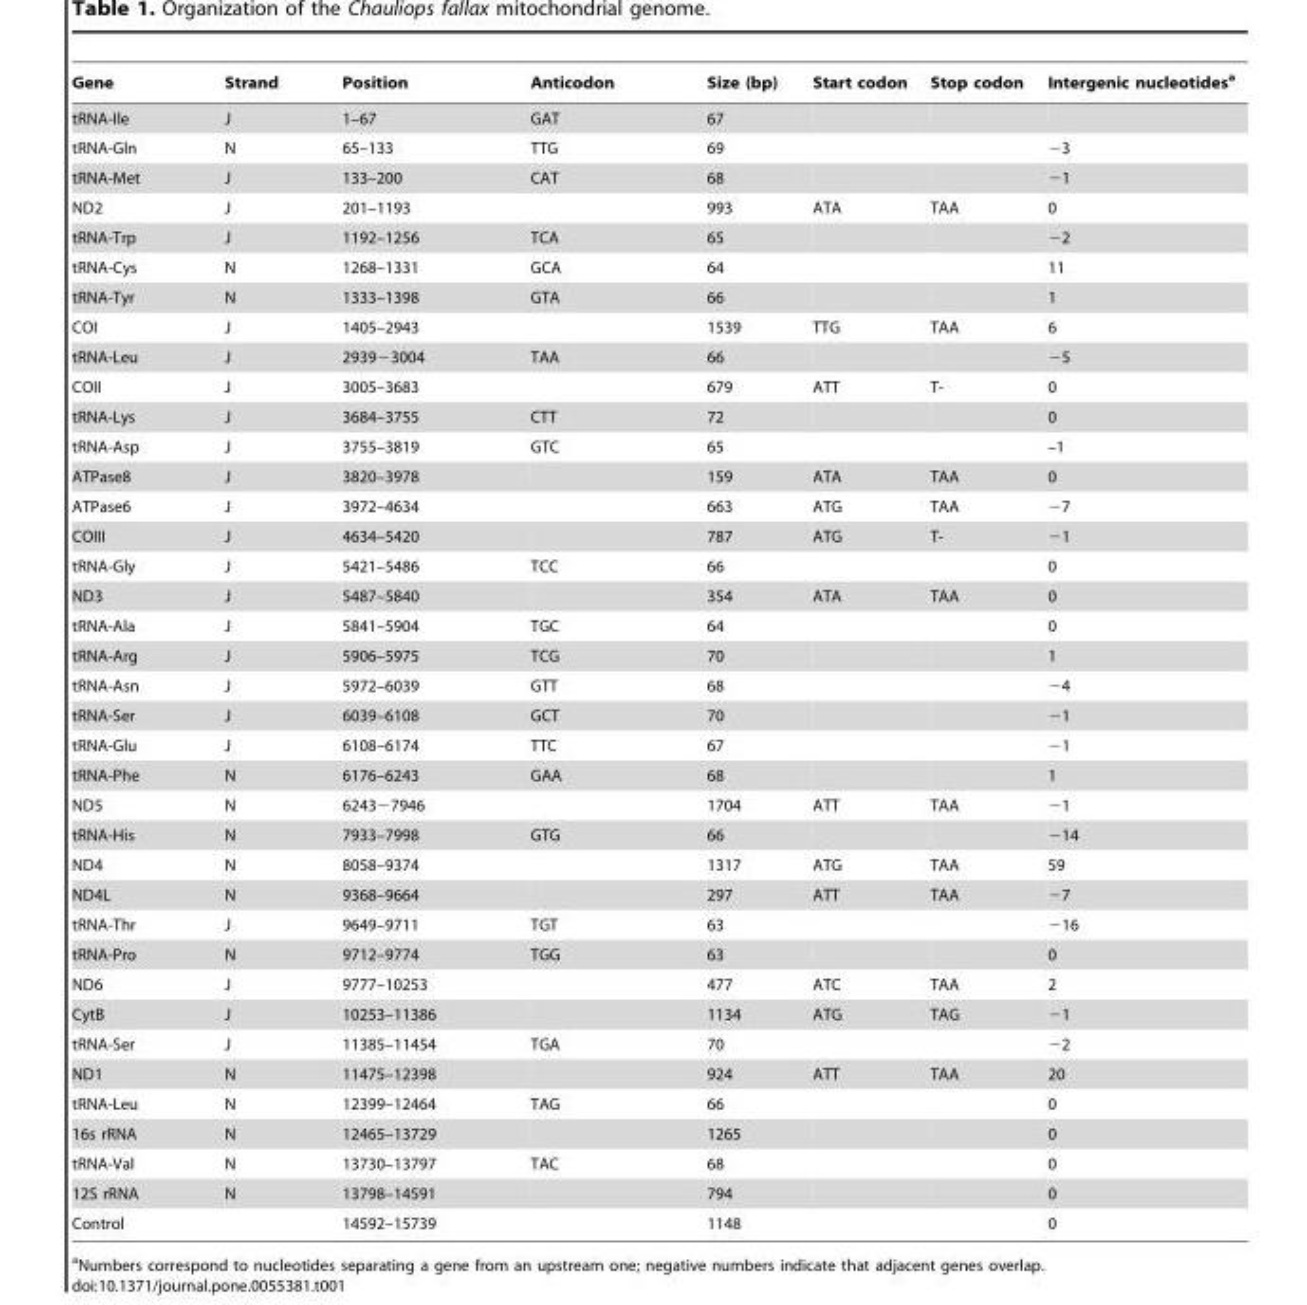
<table><thead><tr><td>Gene</td><td>Strand</td><td>Position</td><td>Anticodon</td><td>Size (bp)</td><td>Start codon</td><td>Stop codon</td><td>Intergenic nucleotides<sup>a</sup></td></tr></thead><tbody><tr><td>tRNA-Ile</td><td>J</td><td>1–67</td><td>GAT</td><td>67</td><td></td><td></td><td></td></tr><tr><td>tRNA-Gln</td><td>N</td><td>65–133</td><td>TTG</td><td>69</td><td></td><td></td><td>−3</td></tr><tr><td>tRNA-Met</td><td>J</td><td>133–200</td><td>CAT</td><td>68</td><td></td><td></td><td>−1</td></tr><tr><td>ND2</td><td>J</td><td>201–1193</td><td></td><td>993</td><td>ATA</td><td>TAA</td><td>0</td></tr><tr><td>tRNA-Trp</td><td>J</td><td>1192–1256</td><td>TCA</td><td>65</td><td></td><td></td><td>−2</td></tr><tr><td>tRNA-Cys</td><td>N</td><td>1268–1331</td><td>GCA</td><td>64</td><td></td><td></td><td>11</td></tr><tr><td>tRNA-Tyr</td><td>N</td><td>1333–1398</td><td>GTA</td><td>66</td><td></td><td></td><td>1</td></tr><tr><td>COI</td><td>J</td><td>1405–2943</td><td></td><td>1539</td><td>TTG</td><td>TAA</td><td>6</td></tr><tr><td>tRNA-Leu</td><td>J</td><td>2939−3004</td><td>TAA</td><td>66</td><td></td><td></td><td>−5</td></tr><tr><td>COII</td><td>J</td><td>3005–3683</td><td></td><td>679</td><td>ATT</td><td>T-</td><td>0</td></tr><tr><td>tRNA-Lys</td><td>J</td><td>3684–3755</td><td>CTT</td><td>72</td><td></td><td></td><td>0</td></tr><tr><td>tRNA-Asp</td><td>J</td><td>3755–3819</td><td>GTC</td><td>65</td><td></td><td></td><td>–1</td></tr><tr><td>ATPase8</td><td>J</td><td>3820–3978</td><td></td><td>159</td><td>ATA</td><td>TAA</td><td>0</td></tr><tr><td>ATPase6</td><td>J</td><td>3972–4634</td><td></td><td>663</td><td>ATG</td><td>TAA</td><td>−7</td></tr><tr><td>COIII</td><td>J</td><td>4634–5420</td><td></td><td>787</td><td>ATG</td><td>T-</td><td>−1</td></tr><tr><td>tRNA-Gly</td><td>J</td><td>5421–5486</td><td>TCC</td><td>66</td><td></td><td></td><td>0</td></tr><tr><td>ND3</td><td>J</td><td>5487–5840</td><td></td><td>354</td><td>ATA</td><td>TAA</td><td>0</td></tr><tr><td>tRNA-Ala</td><td>J</td><td>5841–5904</td><td>TGC</td><td>64</td><td></td><td></td><td>0</td></tr><tr><td>tRNA-Arg</td><td>J</td><td>5906–5975</td><td>TCG</td><td>70</td><td></td><td></td><td>1</td></tr><tr><td>tRNA-Asn</td><td>J</td><td>5972–6039</td><td>GTT</td><td>68</td><td></td><td></td><td>−4</td></tr><tr><td>tRNA-Ser</td><td>J</td><td>6039–6108</td><td>GCT</td><td>70</td><td></td><td></td><td>−1</td></tr><tr><td>tRNA-Glu</td><td>J</td><td>6108–6174</td><td>TTC</td><td>67</td><td></td><td></td><td>−1</td></tr><tr><td>tRNA-Phe</td><td>N</td><td>6176–6243</td><td>GAA</td><td>68</td><td></td><td></td><td>1</td></tr><tr><td>ND5</td><td>N</td><td>6243−7946</td><td></td><td>1704</td><td>ATT</td><td>TAA</td><td>−1</td></tr><tr><td>tRNA-His</td><td>N</td><td>7933–7998</td><td>GTG</td><td>66</td><td></td><td></td><td>−14</td></tr><tr><td>ND4</td><td>N</td><td>8058–9374</td><td></td><td>1317</td><td>ATG</td><td>TAA</td><td>59</td></tr><tr><td>ND4L</td><td>N</td><td>9368–9664</td><td></td><td>297</td><td>ATT</td><td>TAA</td><td>−7</td></tr><tr><td>tRNA-Thr</td><td>J</td><td>9649–9711</td><td>TGT</td><td>63</td><td></td><td></td><td>−16</td></tr><tr><td>tRNA-Pro</td><td>N</td><td>9712–9774</td><td>TGG</td><td>63</td><td></td><td></td><td>0</td></tr><tr><td>ND6</td><td>J</td><td>9777–10253</td><td></td><td>477</td><td>ATC</td><td>TAA</td><td>2</td></tr><tr><td>CytB</td><td>J</td><td>10253–11386</td><td></td><td>1134</td><td>ATG</td><td>TAG</td><td>−1</td></tr><tr><td>tRNA-Ser</td><td>J</td><td>11385–11454</td><td>TGA</td><td>70</td><td></td><td></td><td>−2</td></tr><tr><td>ND1</td><td>N</td><td>11475–12398</td><td></td><td>924</td><td>ATT</td><td>TAA</td><td>20</td></tr><tr><td>tRNA-Leu</td><td>N</td><td>12399–12464</td><td>TAG</td><td>66</td><td></td><td></td><td>0</td></tr><tr><td>16s rRNA</td><td>N</td><td>12465–13729</td><td></td><td>1265</td><td></td><td></td><td>0</td></tr><tr><td>tRNA-Val</td><td>N</td><td>13730–13797</td><td>TAC</td><td>68</td><td></td><td></td><td>0</td></tr><tr><td>12S rRNA</td><td>N</td><td>13798–14591</td><td></td><td>794</td><td></td><td></td><td>0</td></tr><tr><td>Control</td><td></td><td>14592–15739</td><td></td><td>1148</td><td></td><td></td><td>0</td></tr></tbody></table>